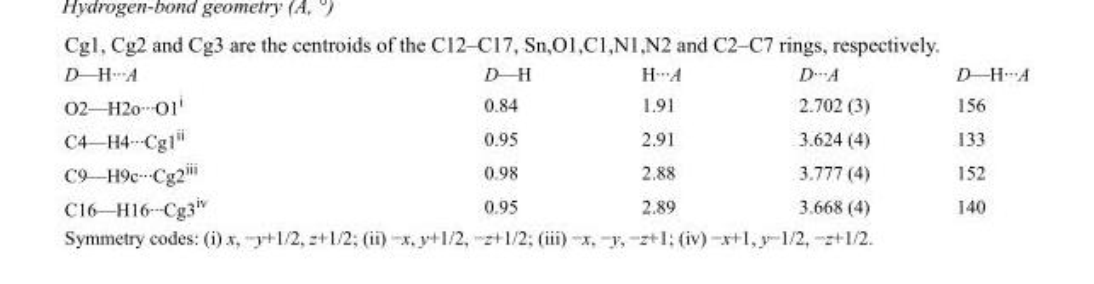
<table><tbody><tr><td>D—H···A</td><td>D—H</td><td>H···A</td><td>D···A</td><td>D—H···A</td></tr><tr><td>O2—H2o···O1<sup>i</sup></td><td>0.84</td><td>1.91</td><td>2.702 (3)</td><td>156</td></tr><tr><td>C4—H4···Cg1<sup>ii</sup></td><td>0.95</td><td>2.91</td><td>3.624 (4)</td><td>133</td></tr><tr><td>C9—H9c···Cg2<sup>iii</sup></td><td>0.98</td><td>2.88</td><td>3.777 (4)</td><td>152</td></tr><tr><td>C16—H16···Cg3<sup>iv</sup></td><td>0.95</td><td>2.89</td><td>3.668 (4)</td><td>140</td></tr></tbody></table>